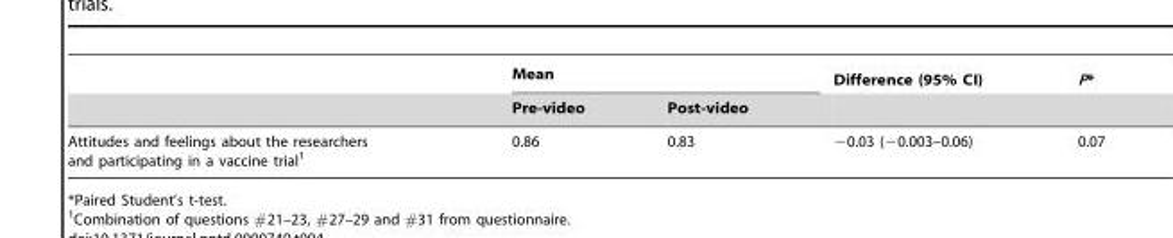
<table><thead><tr><td rowspan="2"></td><td colspan="2">Mean</td><td rowspan="2">Difference (95% CI)</td><td rowspan="2">P*</td></tr><tr><td>Pre-video</td><td>Post-video</td></tr></thead><tbody><tr><td>Attitudes and feelings about the researchers and participating in a vaccine trial<sup>1</sup></td><td>0.86</td><td>0.83</td><td>−0.03 (−0.003–0.06)</td><td>0.07</td></tr></tbody></table>